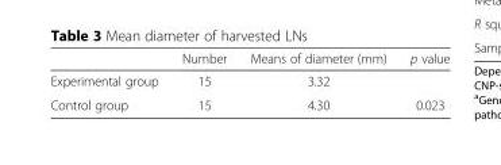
<table><thead><tr><td></td><td>Number</td><td>Means of diameter (mm)</td><td>p value</td></tr></thead><tbody><tr><td>Experimental group</td><td>15</td><td>3.32</td><td></td></tr><tr><td>Control group</td><td>15</td><td>4.30</td><td>0.023</td></tr></tbody></table>